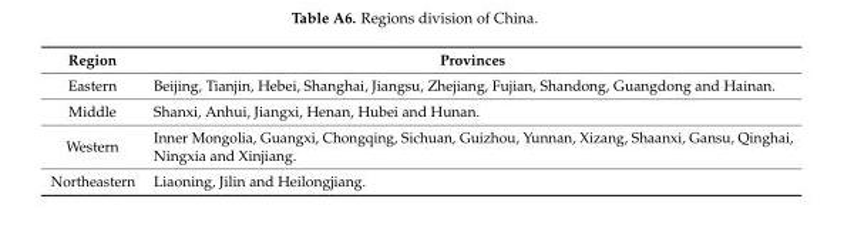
<table><thead><tr><td>Region</td><td>Provinces</td></tr></thead><tbody><tr><td>Eastern</td><td>Beijing, Tianjin, Hebei, Shanghai, Jiangsu, Zhejiang, Fujian, Shandong, Guangdong and Hainan.</td></tr><tr><td>Middle</td><td>Shanxi, Anhui, Jiangxi, Henan, Hubei and Hunan.</td></tr><tr><td>Western</td><td>Inner Mongolia, Guangxi, Chongqing, Sichuan, Guizhou, Yunnan, Xizang, Shaanxi, Gansu, Qinghai, Ningxia and Xinjiang.</td></tr><tr><td>Northeastern</td><td>Liaoning, Jilin and Heilongjiang.</td></tr></tbody></table>